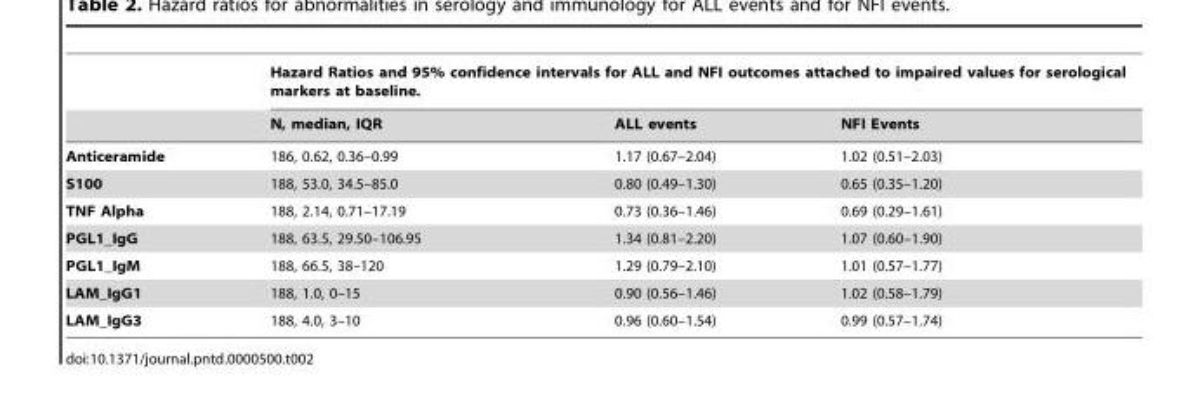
<table><thead><tr><td rowspan="2"></td><td colspan="3">Hazard Ratios and 95% confidence intervals for ALL and NFI outcomes attached to impaired values for serological markers at baseline.</td></tr><tr><td>N, median, IQR</td><td>ALL events</td><td>NFI Events</td></tr></thead><tbody><tr><td>Anticeramide</td><td>186, 0.62, 0.36–0.99</td><td>1.17 (0.67–2.04)</td><td>1.02 (0.51–2.03)</td></tr><tr><td>S100</td><td>188, 53.0, 34.5–85.0</td><td>0.80 (0.49–1.30)</td><td>0.65 (0.35–1.20)</td></tr><tr><td>TNF Alpha</td><td>188, 2.14, 0.71–17.19</td><td>0.73 (0.36–1.46)</td><td>0.69 (0.29–1.61)</td></tr><tr><td>PGL1_IgG</td><td>188, 63.5, 29.50–106.95</td><td>1.34 (0.81–2.20)</td><td>1.07 (0.60–1.90)</td></tr><tr><td>PGL1_IgM</td><td>188, 66.5, 38–120</td><td>1.29 (0.79–2.10)</td><td>1.01 (0.57–1.77)</td></tr><tr><td>LAM_IgG1</td><td>188, 1.0, 0–15</td><td>0.90 (0.56–1.46)</td><td>1.02 (0.58–1.79)</td></tr><tr><td>LAM_IgG3</td><td>188, 4.0, 3–10</td><td>0.96 (0.60–1.54)</td><td>0.99 (0.57–1.74)</td></tr></tbody></table>